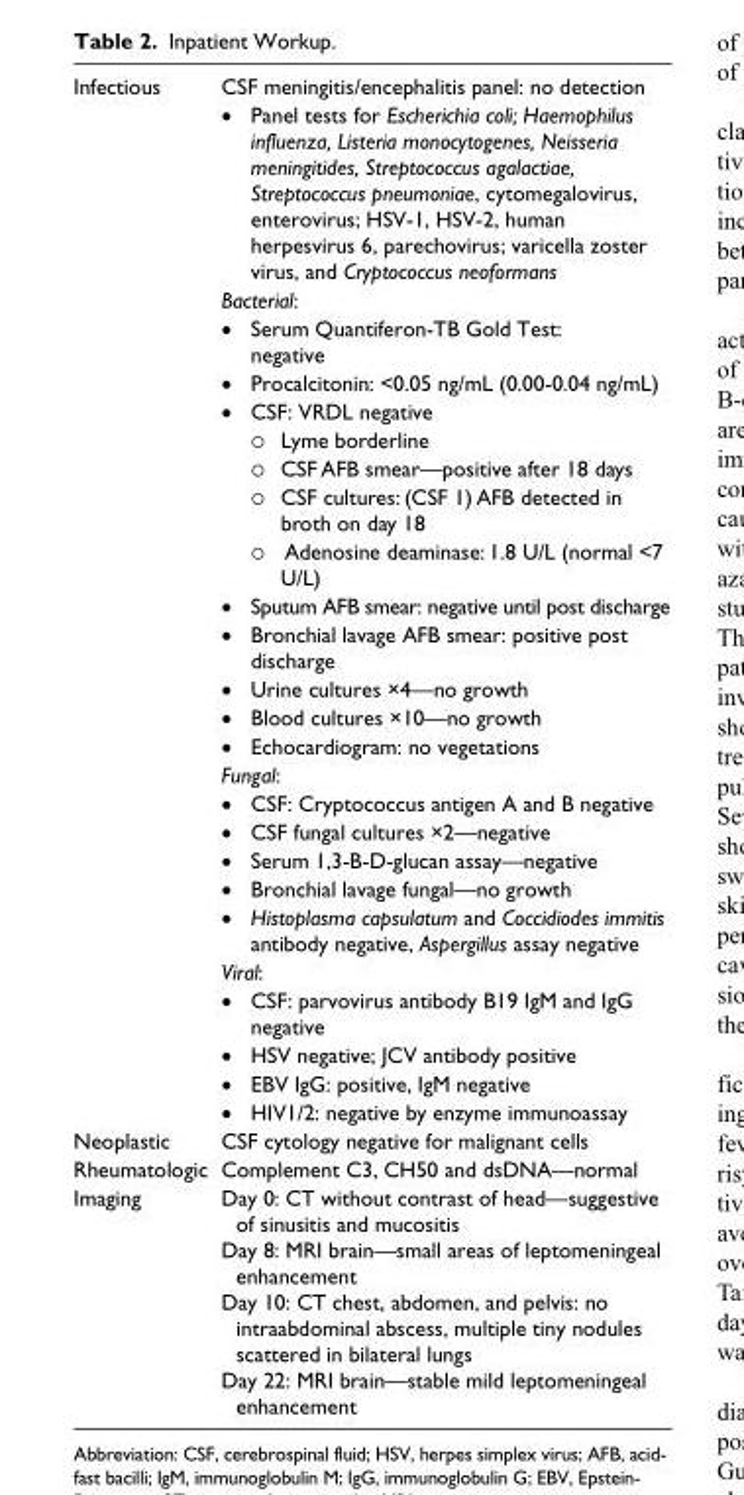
<table><tbody><tr><td rowspan="26">Infectious</td><td>CSF meningitis/encephalitis panel: no detection</td></tr><tr><td>•• Panel tests for Escherichia coli; Haemophilus influenza, Listeria monocytogenes, Neisseria meningitides, Streptococcus agalactiae, Streptococcus pneumoniae, cytomegalovirus, enterovirus; HSV-1, HSV-2, human herpesvirus 6, parechovirus; varicella zoster virus, and Cryptococcus neoformans</td></tr><tr><td>Bacterial:</td></tr><tr><td>•• Serum Quantiferon-TB Gold Test: negative</td></tr><tr><td>•• Procalcitonin: &lt;0.05 ng/mL (0.00-0.04 ng/mL)</td></tr><tr><td>•• CSF: VRDL negative</td></tr><tr><td>{ { Lyme borderline</td></tr><tr><td>{ { CSF AFB smear—positive after 18 days</td></tr><tr><td>{ { CSF cultures: (CSF 1) AFB detected in broth on day 18</td></tr><tr><td>{ { Adenosine deaminase: 1.8 U/L (normal &lt;7 U/L)</td></tr><tr><td>•• Sputum AFB smear: negative until post discharge</td></tr><tr><td>•• Bronchial lavage AFB smear: positive post discharge</td></tr><tr><td>•• Urine cultures ×4—no growth</td></tr><tr><td>•• Blood cultures ×10—no growth</td></tr><tr><td>•• Echocardiogram: no vegetations</td></tr><tr><td>Fungal:</td></tr><tr><td>•• CSF: Cryptococcus antigen A and B negative</td></tr><tr><td>•• CSF fungal cultures ×2—negative</td></tr><tr><td>•• Serum 1,3-B-D-glucan assay—negative</td></tr><tr><td>•• Bronchial lavage fungal—no growth</td></tr><tr><td>•• Histoplasma capsulatum and Coccidiodes immitis antibody negative, Aspergillus assay negative</td></tr><tr><td>Viral:</td></tr><tr><td>•• CSF: parvovirus antibody B19 IgM and IgG negative</td></tr><tr><td>•• HSV negative; JCV antibody positive</td></tr><tr><td>•• EBV IgG: positive, IgM negative</td></tr><tr><td>•• HIV1/2: negative by enzyme immunoassay</td></tr><tr><td>Neoplastic</td><td>CSF cytology negative for malignant cells</td></tr><tr><td>Rheumatologic</td><td>Complement C3, CH50 and dsDNA—normal</td></tr><tr><td>Imaging</td><td>Day 0: CT without contrast of head—suggestive of sinusitis and mucositis Day 8: MRI brain—small areas of leptomeningeal enhancement Day 10: CT chest, abdomen, and pelvis: no intraabdominal abscess, multiple tiny nodules scattered in bilateral lungs Day 22: MRI brain—stable mild leptomeningeal enhancement</td></tr></tbody></table>